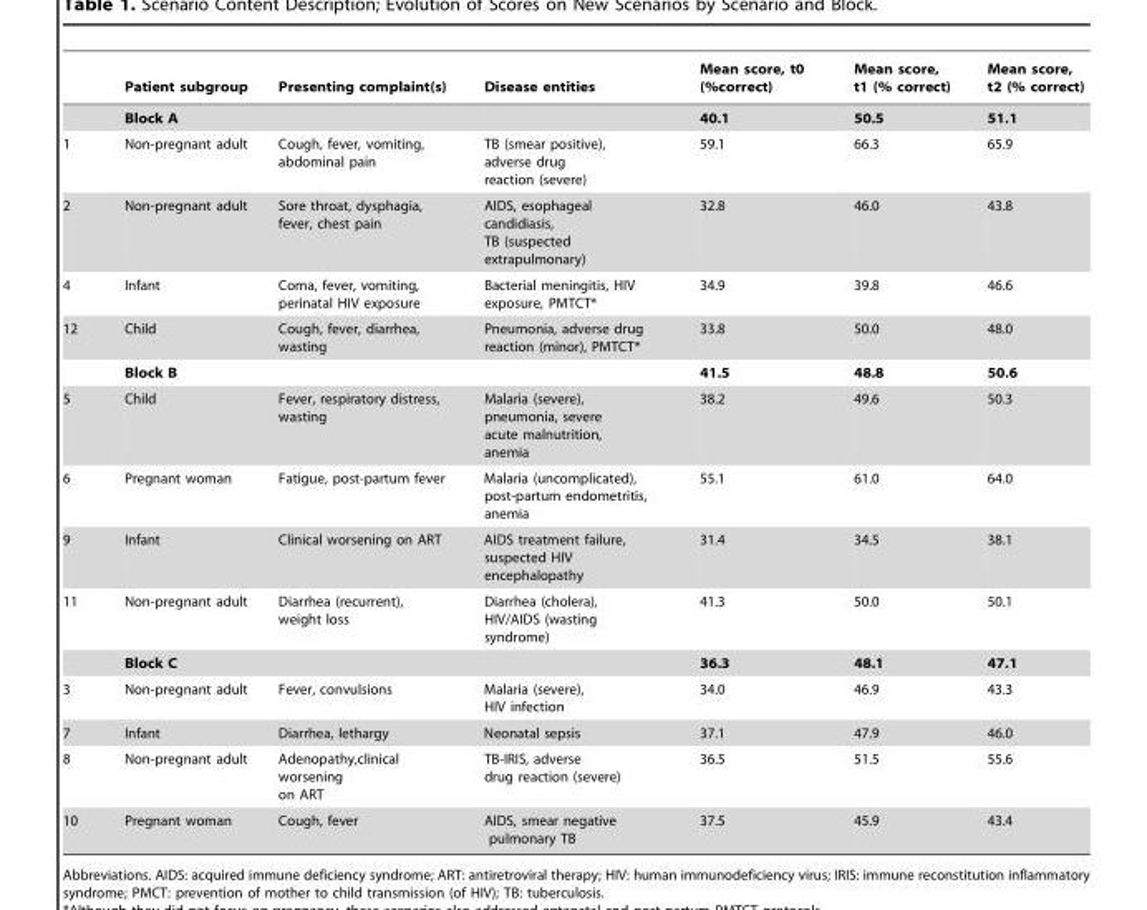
<table><thead><tr><td></td><td>Patient subgroup</td><td>Presenting complaint(s)</td><td>Disease entities</td><td>Mean score, t0 (%correct)</td><td>Mean score, t1 (% correct)</td><td>Mean score, t2 (% correct)</td></tr></thead><tbody><tr><td></td><td>Block A</td><td></td><td></td><td>40.1</td><td>50.5</td><td>51.1</td></tr><tr><td>1</td><td>Non-pregnant adult</td><td>Cough, fever, vomiting, abdominal pain</td><td>TB (smear positive), adverse drug reaction (severe)</td><td>59.1</td><td>66.3</td><td>65.9</td></tr><tr><td>2</td><td>Non-pregnant adult</td><td>Sore throat, dysphagia, fever, chest pain</td><td>AIDS, esophageal candidiasis, TB (suspected extrapulmonary)</td><td>32.8</td><td>46.0</td><td>43.8</td></tr><tr><td>4</td><td>Infant</td><td>Coma, fever, vomiting, perinatal HIV exposure</td><td>Bacterial meningitis, HIV exposure, PMTCT*</td><td>34.9</td><td>39.8</td><td>46.6</td></tr><tr><td rowspan="2">12</td><td>Child</td><td>Cough, fever, diarrhea, wasting</td><td>Pneumonia, adverse drug reaction (minor), PMTCT*</td><td>33.8</td><td>50.0</td><td>48.0</td></tr><tr><td>Block B</td><td></td><td></td><td>41.5</td><td>48.8</td><td>50.6</td></tr><tr><td>5</td><td>Child</td><td>Fever, respiratory distress, wasting</td><td>Malaria (severe), pneumonia, severe acute malnutrition, anemia</td><td>38.2</td><td>49.6</td><td>50.3</td></tr><tr><td>6</td><td>Pregnant woman</td><td>Fatigue, post-partum fever</td><td>Malaria (uncomplicated), post-partum endometritis, anemia</td><td>55.1</td><td>61.0</td><td>64.0</td></tr><tr><td>9</td><td>Infant</td><td>Clinical worsening on ART</td><td>AIDS treatment failure, suspected HIV encephalopathy</td><td>31.4</td><td>34.5</td><td>38.1</td></tr><tr><td rowspan="2">11</td><td>Non-pregnant adult</td><td>Diarrhea (recurrent), weight loss</td><td>Diarrhea (cholera), HIV/AIDS (wasting syndrome)</td><td>41.3</td><td>50.0</td><td>50.1</td></tr><tr><td>Block C</td><td></td><td></td><td>36.3</td><td>48.1</td><td>47.1</td></tr><tr><td>3</td><td>Non-pregnant adult</td><td>Fever, convulsions</td><td>Malaria (severe), HIV infection</td><td>34.0</td><td>46.9</td><td>43.3</td></tr><tr><td>7</td><td>Infant</td><td>Diarrhea, lethargy</td><td>Neonatal sepsis</td><td>37.1</td><td>47.9</td><td>46.0</td></tr><tr><td>8</td><td>Non-pregnant adult</td><td>Adenopathy,clinical worsening on ART</td><td>TB-IRIS, adverse drug reaction (severe)</td><td>36.5</td><td>51.5</td><td>55.6</td></tr><tr><td>10</td><td>Pregnant woman</td><td>Cough, fever</td><td>AIDS, smear negative pulmonary TB</td><td>37.5</td><td>45.9</td><td>43.4</td></tr></tbody></table>